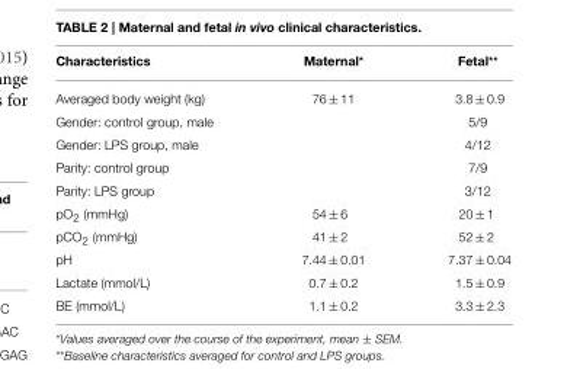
<table><thead><tr><td>Characteristics</td><td>Maternal*</td><td>Fetal**</td></tr></thead><tbody><tr><td>Averaged body weight (kg)</td><td>76 ± 11</td><td>3.8 ± 0.9</td></tr><tr><td>Gender: control group, male</td><td></td><td>5/9</td></tr><tr><td>Gender: LPS group, male</td><td></td><td>4/12</td></tr><tr><td>Parity: control group</td><td></td><td>7/9</td></tr><tr><td>Parity: LPS group</td><td></td><td>3/12</td></tr><tr><td>pO<sub>2</sub> (mmHg)</td><td>54 ± 6</td><td>20 ± 1</td></tr><tr><td>pCO<sub>2</sub> (mmHg)</td><td>41 ± 2</td><td>52 ± 2</td></tr><tr><td>pH</td><td>7.44 ± 0.01</td><td>7.37 ± 0.04</td></tr><tr><td>Lactate (mmol/L)</td><td>0.7 ± 0.2</td><td>1.5 ± 0.9</td></tr><tr><td>BE (mmol/L)</td><td>1.1 ± 0.2</td><td>3.3 ± 2.3</td></tr></tbody></table>